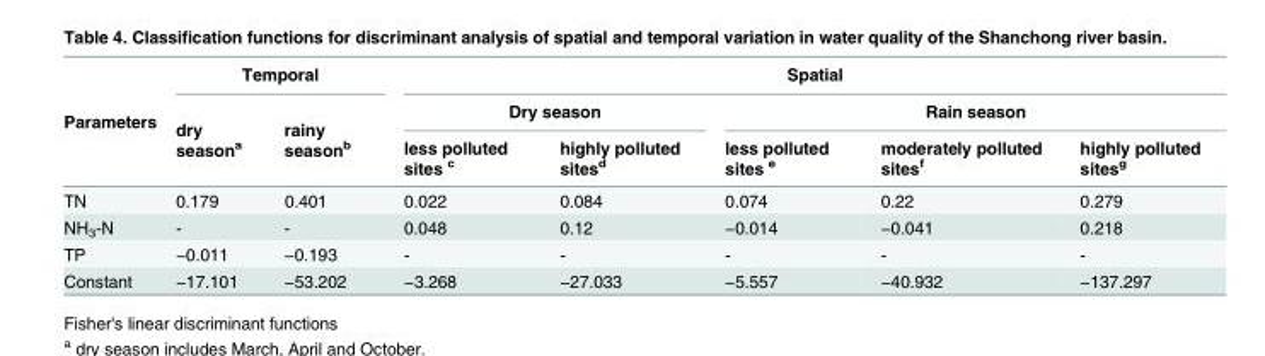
<table><thead><tr><td rowspan="3">Parameters</td><td colspan="2">Temporal</td><td colspan="5">Spatial</td></tr><tr><td rowspan="2">dry season<sup>a</sup></td><td rowspan="2">rainy season<sup>b</sup></td><td colspan="2">Dry season</td><td colspan="3">Rain season</td></tr><tr><td>less polluted sites <sup>c</sup></td><td>highly polluted sites<sup>d</sup></td><td>less polluted sites <sup>e</sup></td><td>moderately polluted sites<sup>f</sup></td><td>highly polluted sites<sup>g</sup></td></tr></thead><tbody><tr><td>TN</td><td>0.179</td><td>0.401</td><td>0.022</td><td>0.084</td><td>0.074</td><td>0.22</td><td>0.279</td></tr><tr><td>NH<sub>3</sub>-N</td><td>-</td><td>-</td><td>0.048</td><td>0.12</td><td>−0.014</td><td>−0.041</td><td>0.218</td></tr><tr><td>TP</td><td>−0.011</td><td>−0.193</td><td>-</td><td>-</td><td>-</td><td>-</td><td>-</td></tr><tr><td>Constant</td><td>−17.101</td><td>−53.202</td><td>−3.268</td><td>−27.033</td><td>−5.557</td><td>−40.932</td><td>−137.297</td></tr></tbody></table>